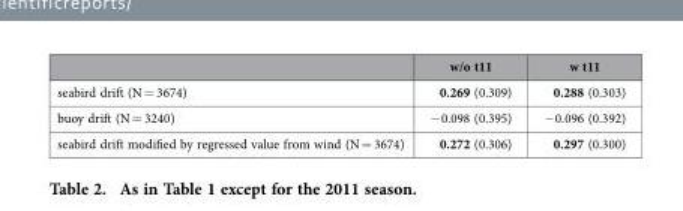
<table><thead><tr><td></td><td>w/o t11</td><td>w t11</td></tr></thead><tbody><tr><td>seabird drift (N = 3674)</td><td>0.269 (0.309)</td><td>0.288 (0.303)</td></tr><tr><td>buoy drift (N = 3240)</td><td>− 0.098 (0.395)</td><td>− 0.096 (0.392)</td></tr><tr><td>seabird drift modified by regressed value from wind (N = 3674)</td><td>0.272 (0.306)</td><td>0.297 (0.300)</td></tr></tbody></table>